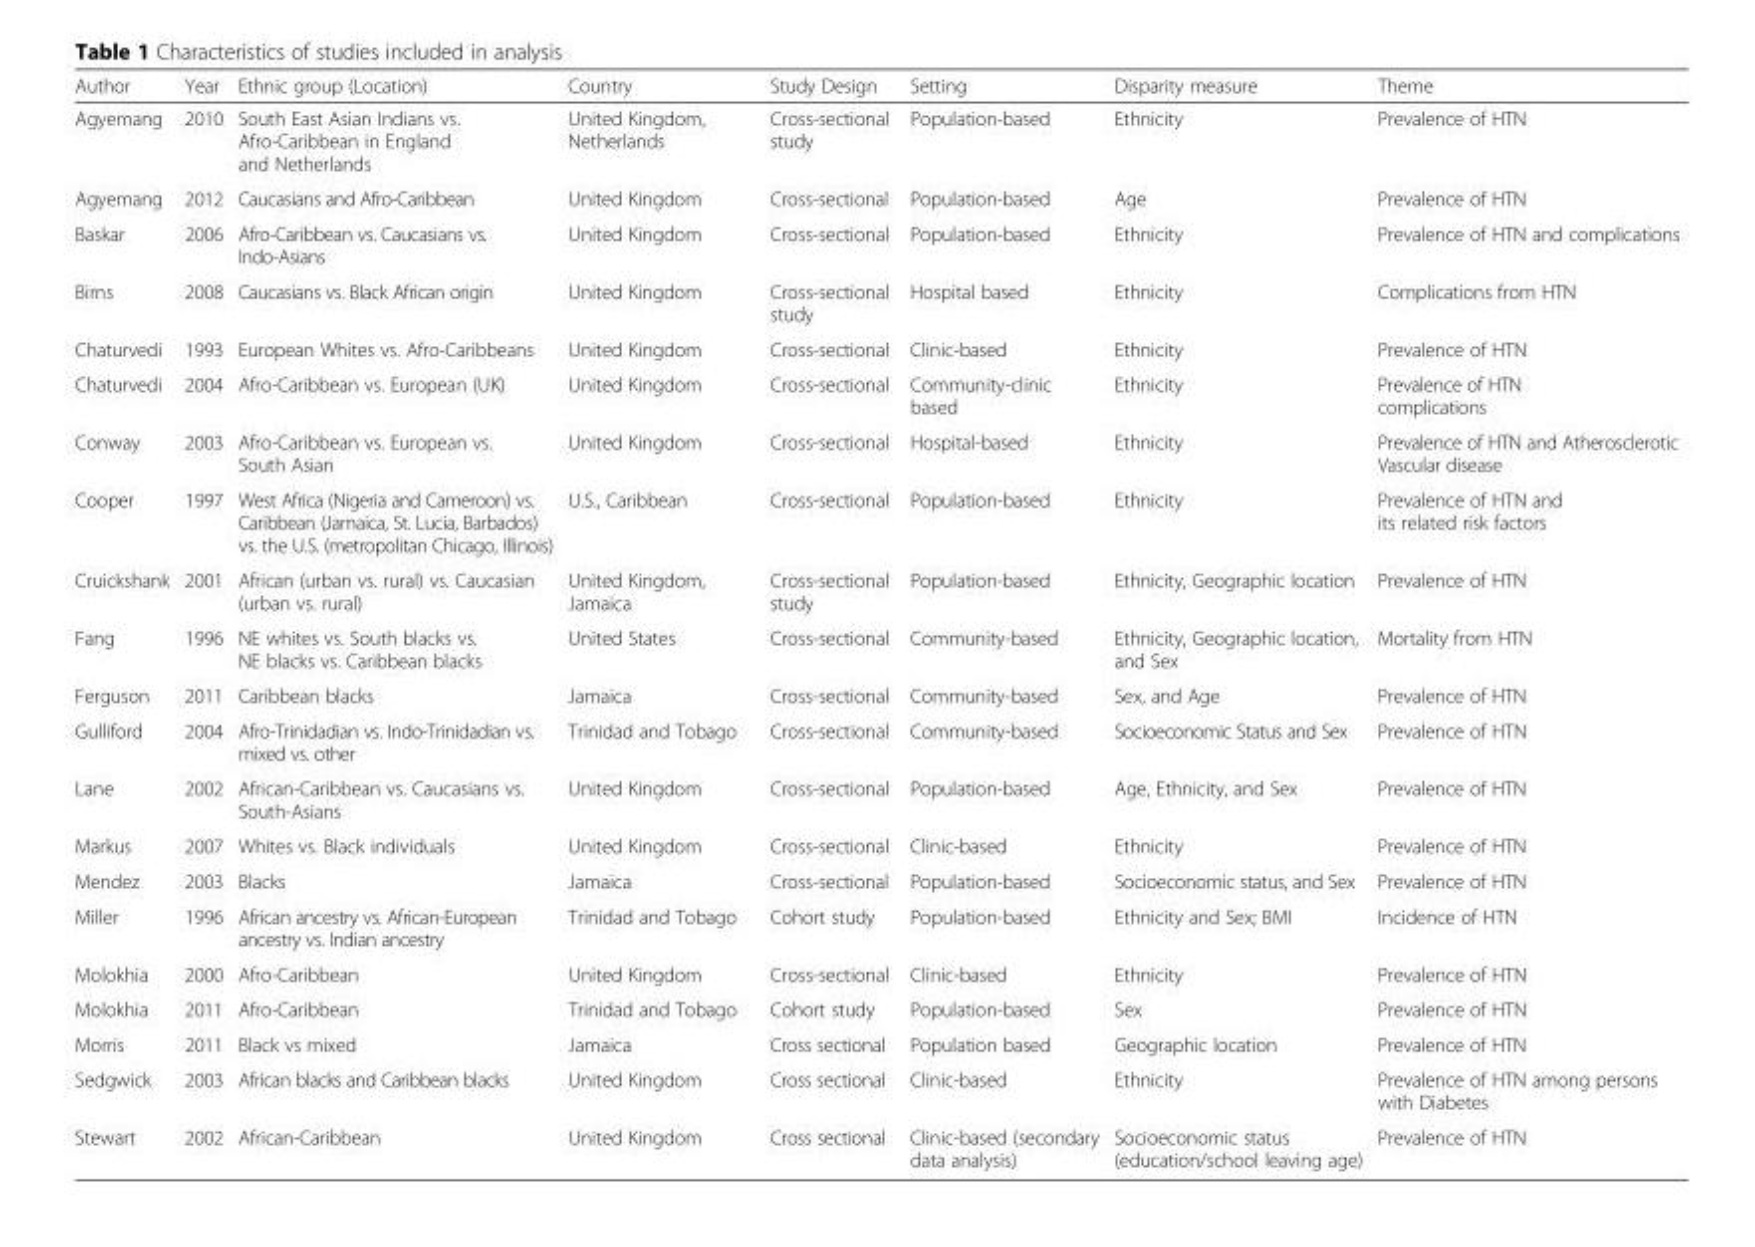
<table><thead><tr><td>Author</td><td>Year</td><td>Ethnic group (Location)</td><td>Country</td><td>Study Design</td><td>Setting</td><td>Disparity measure</td><td>Theme</td></tr></thead><tbody><tr><td>Agyemang</td><td>2010</td><td>South East Asian Indians vs. Afro-Caribbean in England and Netherlands</td><td>United Kingdom, Netherlands</td><td>Cross-sectional study</td><td>Population-based</td><td>Ethnicity</td><td>Prevalence of HTN</td></tr><tr><td>Agyemang</td><td>2012</td><td>Caucasians and Afro-Caribbean</td><td>United Kingdom</td><td>Cross-sectional</td><td>Population-based</td><td>Age</td><td>Prevalence of HTN</td></tr><tr><td>Baskar</td><td>2006</td><td>Afro-Caribbean vs. Caucasians vs. Indo-Asians</td><td>United Kingdom</td><td>Cross-sectional</td><td>Population-based</td><td>Ethnicity</td><td>Prevalence of HTN and complications</td></tr><tr><td>Birns</td><td>2008</td><td>Caucasians vs. Black African origin</td><td>United Kingdom</td><td>Cross-sectional study</td><td>Hospital based</td><td>Ethnicity</td><td>Complications from HTN</td></tr><tr><td>Chaturvedi</td><td>1993</td><td>European Whites vs. Afro-Caribbeans</td><td>United Kingdom</td><td>Cross-sectional</td><td>Clinic-based</td><td>Ethnicity</td><td>Prevalence of HTN</td></tr><tr><td>Chaturvedi</td><td>2004</td><td>Afro-Caribbean vs. European (UK)</td><td>United Kingdom</td><td>Cross-sectional</td><td>Community-clinic based</td><td>Ethnicity</td><td>Prevalence of HTN complications</td></tr><tr><td>Conway</td><td>2003</td><td>Afro-Caribbean vs. European vs. South Asian</td><td>United Kingdom</td><td>Cross-sectional</td><td>Hospital-based</td><td>Ethnicity</td><td>Prevalence of HTN and Atherosclerotic Vascular disease</td></tr><tr><td>Cooper</td><td>1997</td><td>West Africa (Nigeria and Cameroon) vs. Caribbean (Jamaica, St. Lucia, Barbados) vs. the U.S. (metropolitan Chicago, Illinois)</td><td>U.S., Caribbean</td><td>Cross-sectional</td><td>Population-based</td><td>Ethnicity</td><td>Prevalence of HTN and its related risk factors</td></tr><tr><td>Cruickshank</td><td>2001</td><td>African (urban vs. rural) vs. Caucasian (urban vs. rural)</td><td>United Kingdom, Jamaica</td><td>Cross-sectional study</td><td>Population-based</td><td>Ethnicity, Geographic location</td><td>Prevalence of HTN</td></tr><tr><td>Fang</td><td>1996</td><td>NE whites vs. South blacks vs. NE blacks vs. Caribbean blacks</td><td>United States</td><td>Cross-sectional</td><td>Community-based</td><td>Ethnicity, Geographic location, and Sex</td><td>Mortality from HTN</td></tr><tr><td>Ferguson</td><td>2011</td><td>Caribbean blacks</td><td>Jamaica</td><td>Cross-sectional</td><td>Community-based</td><td>Sex, and Age</td><td>Prevalence of HTN</td></tr><tr><td>Gulliford</td><td>2004</td><td>Afro-Trinidadian vs. Indo-Trinidadian vs. mixed vs. other</td><td>Trinidad and Tobago</td><td>Cross-sectional</td><td>Community-based</td><td>Socioeconomic Status and Sex</td><td>Prevalence of HTN</td></tr><tr><td>Lane</td><td>2002</td><td>African-Caribbean vs. Caucasians vs. South-Asians</td><td>United Kingdom</td><td>Cross-sectional</td><td>Population-based</td><td>Age, Ethnicity, and Sex</td><td>Prevalence of HTN</td></tr><tr><td>Markus</td><td>2007</td><td>Whites vs. Black individuals</td><td>United Kingdom</td><td>Cross-sectional</td><td>Clinic-based</td><td>Ethnicity</td><td>Prevalence of HTN</td></tr><tr><td>Mendez</td><td>2003</td><td>Blacks</td><td>Jamaica</td><td>Cross-sectional</td><td>Population-based</td><td>Socioeconomic status, and Sex</td><td>Prevalence of HTN</td></tr><tr><td>Miller</td><td>1996</td><td>African ancestry vs. African-European ancestry vs. Indian ancestry</td><td>Trinidad and Tobago</td><td>Cohort study</td><td>Population-based</td><td>Ethnicity and Sex; BMI</td><td>Incidence of HTN</td></tr><tr><td>Molokhia</td><td>2000</td><td>Afro-Caribbean</td><td>United Kingdom</td><td>Cross-sectional</td><td>Clinic-based</td><td>Ethnicity</td><td>Prevalence of HTN</td></tr><tr><td>Molokhia</td><td>2011</td><td>Afro-Caribbean</td><td>Trinidad and Tobago</td><td>Cohort study</td><td>Population-based</td><td>Sex</td><td>Prevalence of HTN</td></tr><tr><td>Morris</td><td>2011</td><td>Black vs mixed</td><td>Jamaica</td><td>Cross sectional</td><td>Population based</td><td>Geographic location</td><td>Prevalence of HTN</td></tr><tr><td>Sedgwick</td><td>2003</td><td>African blacks and Caribbean blacks</td><td>United Kingdom</td><td>Cross sectional</td><td>Clinic-based</td><td>Ethnicity</td><td>Prevalence of HTN among persons with Diabetes</td></tr><tr><td>Stewart</td><td>2002</td><td>African-Caribbean</td><td>United Kingdom</td><td>Cross sectional</td><td>Clinic-based (secondary data analysis)</td><td>Socioeconomic status (education/school leaving age)</td><td>Prevalence of HTN</td></tr></tbody></table>